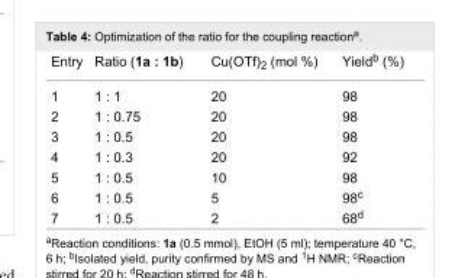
<table><tbody><tr><td>Entry</td><td>Ratio (1a : 1b)</td><td>Cu(OTf)<sub>2</sub> (mol %)</td><td>Yield<sup>b</sup> (%)</td></tr><tr><td>1</td><td>1 : 1</td><td>20</td><td>98</td></tr><tr><td>2</td><td>1 : 0.75</td><td>20</td><td>98</td></tr><tr><td>3</td><td>1 : 0.5</td><td>20</td><td>98</td></tr><tr><td>4</td><td>1 : 0.3</td><td>20</td><td>92</td></tr><tr><td>5</td><td>1 : 0.5</td><td>10</td><td>98</td></tr><tr><td>6</td><td>1 : 0.5</td><td>5</td><td>98<sup>c</sup></td></tr><tr><td>7</td><td>1 : 0.5</td><td>2</td><td>68<sup>d</sup></td></tr></tbody></table>